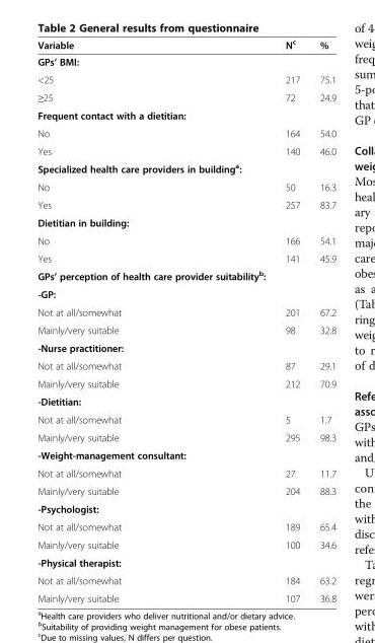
<table><thead><tr><td>Variable</td><td>N<sup>c</sup></td><td>%</td></tr></thead><tbody><tr><td colspan="3">GPs’ BMI:</td></tr><tr><td>&lt;25</td><td>217</td><td>75.1</td></tr><tr><td>≥25</td><td>72</td><td>24.9</td></tr><tr><td colspan="3">Frequent contact with a dietitian:</td></tr><tr><td>No</td><td>164</td><td>54.0</td></tr><tr><td>Yes</td><td>140</td><td>46.0</td></tr><tr><td colspan="3">Specialized health care providers in building<sup>a</sup>:</td></tr><tr><td>No</td><td>50</td><td>16.3</td></tr><tr><td>Yes</td><td>257</td><td>83.7</td></tr><tr><td colspan="3">Dietitian in building:</td></tr><tr><td>No</td><td>166</td><td>54.1</td></tr><tr><td>Yes</td><td>141</td><td>45.9</td></tr><tr><td colspan="3">GPs’ perception of health care provider suitability<sup>b</sup>:</td></tr><tr><td colspan="3">-GP:</td></tr><tr><td>Not at all/somewhat</td><td>201</td><td>67.2</td></tr><tr><td>Mainly/very suitable</td><td>98</td><td>32.8</td></tr><tr><td colspan="3">-Nurse practitioner:</td></tr><tr><td>Not at all/somewhat</td><td>87</td><td>29.1</td></tr><tr><td>Mainly/very suitable</td><td>212</td><td>70.9</td></tr><tr><td colspan="3">-Dietitian:</td></tr><tr><td>Not at all/somewhat</td><td>5</td><td>1.7</td></tr><tr><td>Mainly/very suitable</td><td>295</td><td>98.3</td></tr><tr><td colspan="3">-Weight-management consultant:</td></tr><tr><td>Not at all/somewhat</td><td>27</td><td>11.7</td></tr><tr><td>Mainly/very suitable</td><td>204</td><td>88.3</td></tr><tr><td colspan="3">-Psychologist:</td></tr><tr><td>Not at all/somewhat</td><td>189</td><td>65.4</td></tr><tr><td>Mainly/very suitable</td><td>100</td><td>34.6</td></tr><tr><td colspan="3">-Physical therapist:</td></tr><tr><td>Not at all/somewhat</td><td>184</td><td>63.2</td></tr><tr><td>Mainly/very suitable</td><td>107</td><td>36.8</td></tr></tbody></table>